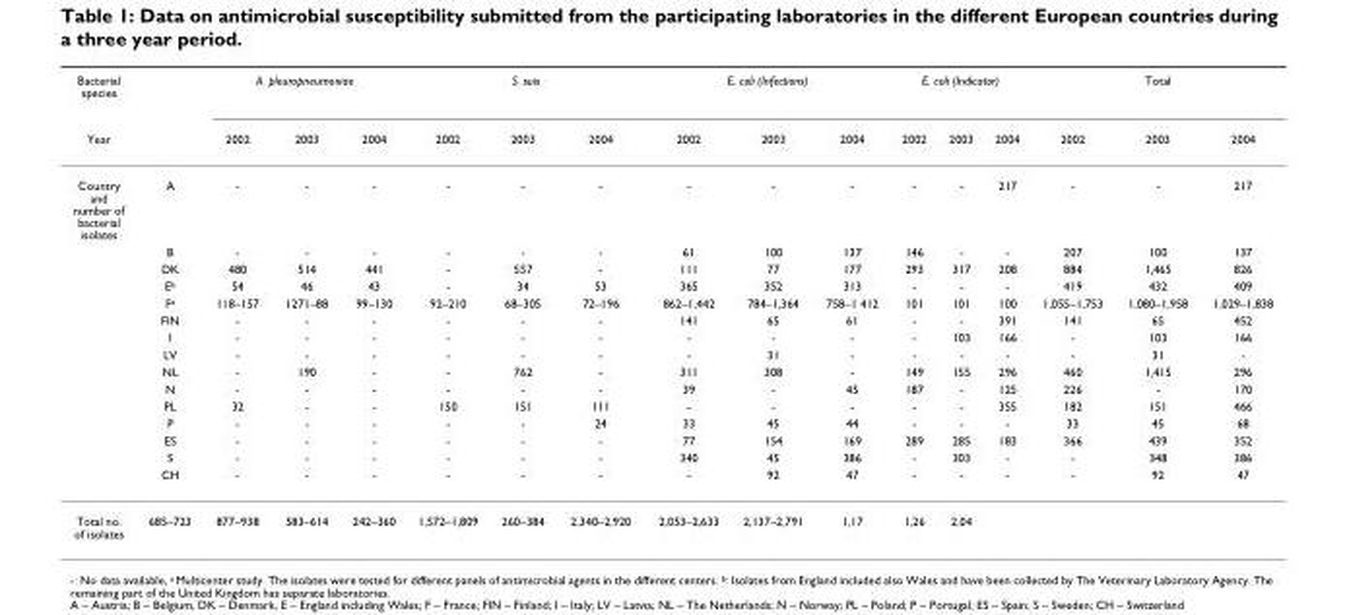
<table><thead><tr><td rowspan="2">Bacterial species Year</td><td rowspan="2"></td><td colspan="3">A. pleuropneumoniae</td><td colspan="3">S. suis</td><td colspan="3">E. coli (Infections)</td><td colspan="3">E. coli (Indicator)</td><td colspan="3">Total</td></tr><tr><td>2002</td><td>2003</td><td>2004</td><td>2002</td><td>2003</td><td>2004</td><td>2002</td><td>2003</td><td>2004</td><td>2002</td><td>2003</td><td>2004</td><td>2002</td><td>2003</td><td>2004</td></tr></thead><tbody><tr><td rowspan="15">Country and number of bacterial isolates</td><td>A</td><td>-</td><td>-</td><td>-</td><td>-</td><td>-</td><td>-</td><td>-</td><td>-</td><td>-</td><td>-</td><td>-</td><td>217</td><td>-</td><td>-</td><td>217</td></tr><tr><td>B</td><td>-</td><td>-</td><td>-</td><td>-</td><td>-</td><td>-</td><td>61</td><td>100</td><td>137</td><td>146</td><td>-</td><td>-</td><td>207</td><td>100</td><td>137</td></tr><tr><td>DK</td><td>480</td><td>514</td><td>441</td><td>-</td><td>557</td><td>-</td><td>111</td><td>77</td><td>177</td><td>293</td><td>317</td><td>208</td><td>884</td><td>1,465</td><td>826</td></tr><tr><td>E<sup>b</sup></td><td>54</td><td>46</td><td>43</td><td>-</td><td>34</td><td>53</td><td>365</td><td>352</td><td>313</td><td>-</td><td>-</td><td>-</td><td>419</td><td>432</td><td>409</td></tr><tr><td>F<sup>a</sup></td><td>118–157</td><td>1271–88</td><td>99–130</td><td>92–210</td><td>68–305</td><td>72–196</td><td>862–1,442</td><td>784–1,364</td><td>758–1 412</td><td>101</td><td>101</td><td>100</td><td>1,055–1,753</td><td>1,080–1,958</td><td>1,029–1,838</td></tr><tr><td>FIN</td><td>-</td><td>-</td><td>-</td><td>-</td><td>-</td><td>-</td><td>141</td><td>65</td><td>61</td><td>-</td><td>-</td><td>391</td><td>141</td><td>65</td><td>452</td></tr><tr><td>I</td><td>-</td><td>-</td><td>-</td><td>-</td><td>-</td><td>-</td><td>-</td><td>-</td><td>-</td><td>-</td><td>103</td><td>166</td><td>-</td><td>103</td><td>166</td></tr><tr><td>LV</td><td>-</td><td>-</td><td>-</td><td>-</td><td>-</td><td>-</td><td>-</td><td>31</td><td>-</td><td>-</td><td>-</td><td>-</td><td>-</td><td>31</td><td>-</td></tr><tr><td>NL</td><td>-</td><td>190</td><td>-</td><td>-</td><td>762</td><td>-</td><td>311</td><td>308</td><td>-</td><td>149</td><td>155</td><td>296</td><td>460</td><td>1,415</td><td>296</td></tr><tr><td>N</td><td>-</td><td>-</td><td>-</td><td>-</td><td>-</td><td>-</td><td>39</td><td>-</td><td>45</td><td>187</td><td>-</td><td>125</td><td>226</td><td>-</td><td>170</td></tr><tr><td>PL</td><td>32</td><td>-</td><td>-</td><td>150</td><td>151</td><td>111</td><td>-</td><td>-</td><td>-</td><td>-</td><td>-</td><td>355</td><td>182</td><td>151</td><td>466</td></tr><tr><td>P</td><td>-</td><td>-</td><td>-</td><td>-</td><td>-</td><td>24</td><td>33</td><td>45</td><td>44</td><td>-</td><td>-</td><td>-</td><td>33</td><td>45</td><td>68</td></tr><tr><td>ES</td><td>-</td><td>-</td><td>-</td><td>-</td><td>-</td><td>-</td><td>77</td><td>154</td><td>169</td><td>289</td><td>285</td><td>183</td><td>366</td><td>439</td><td>352</td></tr><tr><td>S</td><td>-</td><td>-</td><td>-</td><td>-</td><td>-</td><td>-</td><td>340</td><td>45</td><td>386</td><td>-</td><td>303</td><td>-</td><td>-</td><td>348</td><td>386</td></tr><tr><td>CH</td><td>-</td><td>-</td><td>-</td><td>-</td><td>-</td><td>-</td><td>-</td><td>92</td><td>47</td><td>-</td><td>-</td><td>-</td><td>-</td><td>92</td><td>47</td></tr><tr><td>Total no. of isolates</td><td>685–723</td><td>877–938</td><td>583–614</td><td>242–360</td><td>1,572–1,809</td><td>260–384</td><td>2,340–2,920</td><td>2,053–2,633</td><td>2,137–2,791</td><td>1,17</td><td>1,26</td><td>2,04</td><td></td><td></td><td></td><td></td></tr></tbody></table>